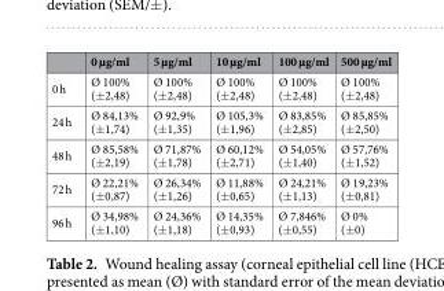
<table><thead><tr><td></td><td>0 µg/ml</td><td>5 µg/ml</td><td>10 µg/ml</td><td>100 µg/ml</td><td>500 µg/ml</td></tr></thead><tbody><tr><td>0 h</td><td>Ø 100% (±2,48)</td><td>Ø 100% (±2,48)</td><td>Ø 100% (±2,48)</td><td>Ø 100% (±2,48)</td><td>Ø 100% (±2,48)</td></tr><tr><td>24 h</td><td>Ø 84,13% (±1,74)</td><td>Ø 92,9% (±1,35)</td><td>Ø 105,3% (±1,96)</td><td>Ø 83,85% (±2,85)</td><td>Ø 85,85% (±2,50)</td></tr><tr><td>48 h</td><td>Ø 85,58% (±2,19)</td><td>Ø 71,87% (±1,78)</td><td>Ø 60,12% (±2,71)</td><td>Ø 54,05% (±1,40)</td><td>Ø 57,76% (±1,52)</td></tr><tr><td>72 h</td><td>Ø 22,21% (±0,87)</td><td>Ø 26,34% (±1,26)</td><td>Ø 11,88% (±0,65)</td><td>Ø 24,21% (±1,13)</td><td>Ø 19,23% (±0,81)</td></tr><tr><td>96 h</td><td>Ø 34,98% (±1,10)</td><td>Ø 24,36% (±1,18)</td><td>Ø 14,35% (±0,93)</td><td>Ø 7,846% (±0,55)</td><td>Ø 0% (±0)</td></tr></tbody></table>